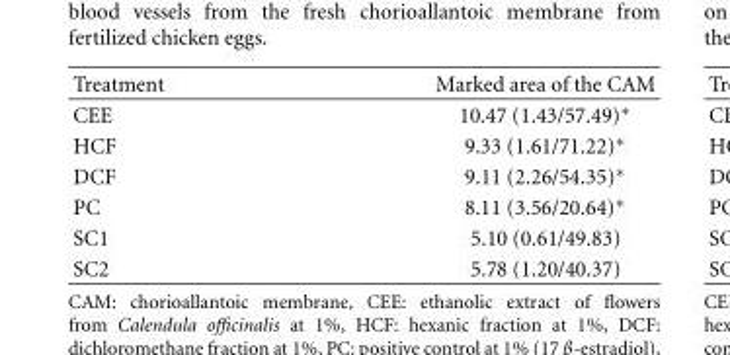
<table><thead><tr><td>Treatment</td><td>Marked area of the CAM</td></tr></thead><tbody><tr><td>CEE</td><td>10.47 (1.43/57.49)∗</td></tr><tr><td>HCF</td><td>9.33 (1.61/71.22)∗</td></tr><tr><td>DCF</td><td>9.11 (2.26/54.35)∗</td></tr><tr><td>PC</td><td>8.11 (3.56/20.64)∗</td></tr><tr><td>SC1</td><td>5.10 (0.61/49.83)</td></tr><tr><td>SC2</td><td>5.78 (1.20/40.37)</td></tr></tbody></table>